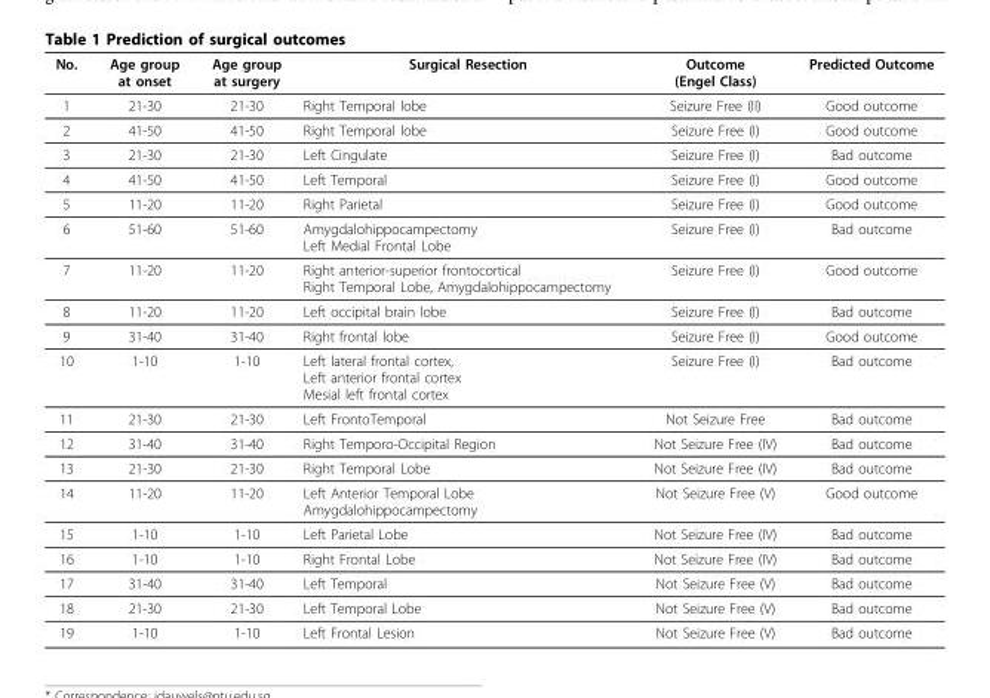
<table><thead><tr><td>No.</td><td>Age group at onset</td><td>Age group at surgery</td><td>Surgical Resection</td><td>Outcome (Engel Class)</td><td>Predicted Outcome</td></tr></thead><tbody><tr><td>1</td><td>21-30</td><td>21-30</td><td>Right Temporal lobe</td><td>Seizure Free (II)</td><td>Good outcome</td></tr><tr><td>2</td><td>41-50</td><td>41-50</td><td>Right Temporal lobe</td><td>Seizure Free (I)</td><td>Good outcome</td></tr><tr><td>3</td><td>21-30</td><td>21-30</td><td>Left Cingulate</td><td>Seizure Free (I)</td><td>Bad outcome</td></tr><tr><td>4</td><td>41-50</td><td>41-50</td><td>Left Temporal</td><td>Seizure Free (I)</td><td>Good outcome</td></tr><tr><td>5</td><td>11-20</td><td>11-20</td><td>Right Parietal</td><td>Seizure Free (I)</td><td>Good outcome</td></tr><tr><td>6</td><td>51-60</td><td>51-60</td><td>Amygdalohippocampectomy Left Medial Frontal Lobe</td><td>Seizure Free (I)</td><td>Bad outcome</td></tr><tr><td>7</td><td>11-20</td><td>11-20</td><td>Right anterior-superior frontocortical Right Temporal Lobe, Amygdalohippocampectomy</td><td>Seizure Free (I)</td><td>Good outcome</td></tr><tr><td>8</td><td>11-20</td><td>11-20</td><td>Left occipital brain lobe</td><td>Seizure Free (I)</td><td>Bad outcome</td></tr><tr><td>9</td><td>31-40</td><td>31-40</td><td>Right frontal lobe</td><td>Seizure Free (I)</td><td>Good outcome</td></tr><tr><td>10</td><td>1-10</td><td>1-10</td><td>Left lateral frontal cortex, Left anterior frontal cortex Mesial left frontal cortex</td><td>Seizure Free (I)</td><td>Bad outcome</td></tr><tr><td>11</td><td>21-30</td><td>21-30</td><td>Left FrontoTemporal</td><td>Not Seizure Free</td><td>Bad outcome</td></tr><tr><td>12</td><td>31-40</td><td>31-40</td><td>Right Temporo-Occipital Region</td><td>Not Seizure Free (IV)</td><td>Bad outcome</td></tr><tr><td>13</td><td>21-30</td><td>21-30</td><td>Right Temporal Lobe</td><td>Not Seizure Free (IV)</td><td>Bad outcome</td></tr><tr><td>14</td><td>11-20</td><td>11-20</td><td>Left Anterior Temporal Lobe Amygdalohippocampectomy</td><td>Not Seizure Free (V)</td><td>Good outcome</td></tr><tr><td>15</td><td>1-10</td><td>1-10</td><td>Left Parietal Lobe</td><td>Not Seizure Free (IV)</td><td>Bad outcome</td></tr><tr><td>16</td><td>1-10</td><td>1-10</td><td>Right Frontal Lobe</td><td>Not Seizure Free (IV)</td><td>Bad outcome</td></tr><tr><td>17</td><td>31-40</td><td>31-40</td><td>Left Temporal</td><td>Not Seizure Free (V)</td><td>Bad outcome</td></tr><tr><td>18</td><td>21-30</td><td>21-30</td><td>Left Temporal Lobe</td><td>Not Seizure Free (V)</td><td>Bad outcome</td></tr><tr><td>19</td><td>1-10</td><td>1-10</td><td>Left Frontal Lesion</td><td>Not Seizure Free (V)</td><td>Bad outcome</td></tr></tbody></table>